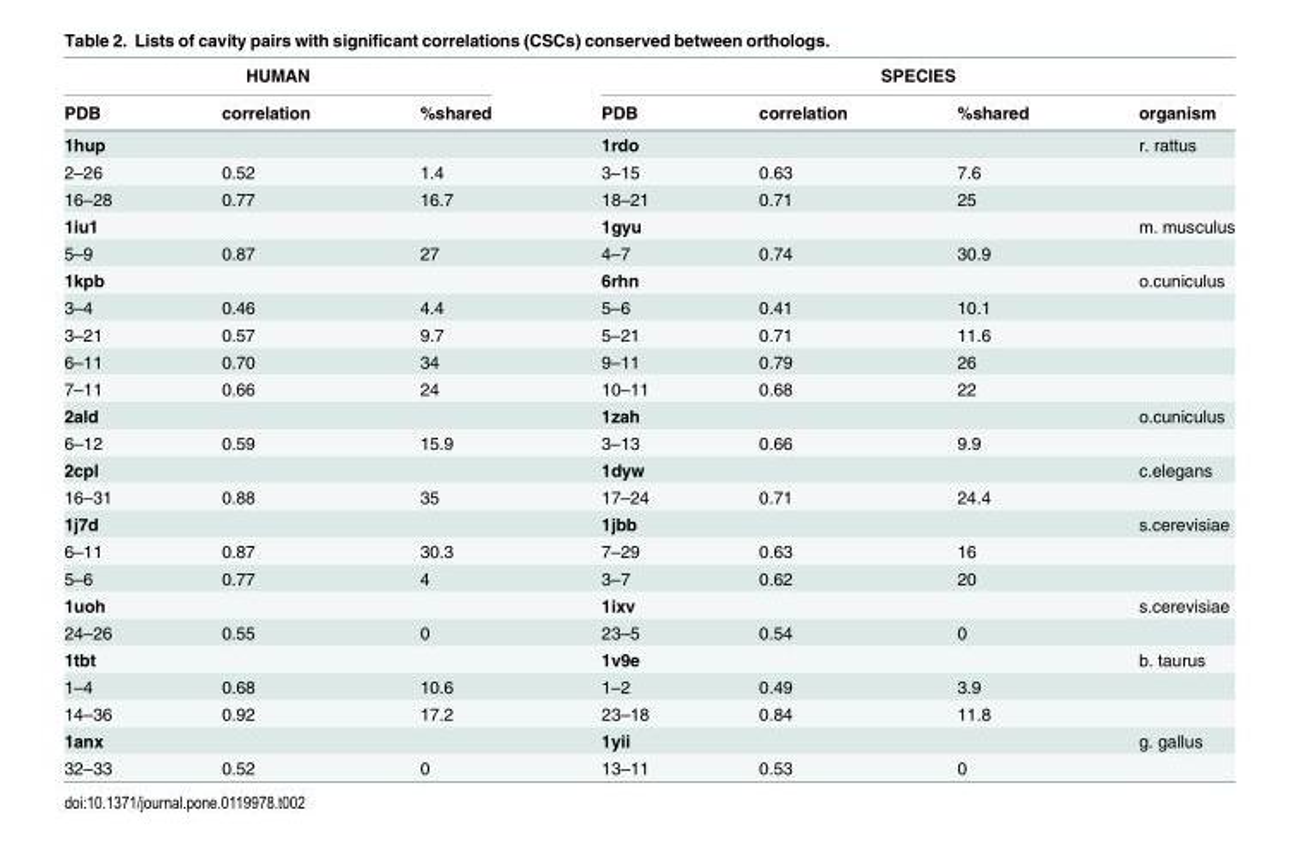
<table><thead><tr><td colspan="3">HUMAN</td><td colspan="4">SPECIES</td></tr><tr><td>PDB</td><td>correlation</td><td>%shared</td><td>PDB</td><td>correlation</td><td>%shared</td><td>organism</td></tr></thead><tbody><tr><td>1hup</td><td></td><td></td><td>1rdo</td><td></td><td></td><td>r. rattus</td></tr><tr><td>2–26</td><td>0.52</td><td>1.4</td><td>3–15</td><td>0.63</td><td>7.6</td><td></td></tr><tr><td>16–28</td><td>0.77</td><td>16.7</td><td>18–21</td><td>0.71</td><td>25</td><td></td></tr><tr><td>1iu1</td><td></td><td></td><td>1gyu</td><td></td><td></td><td>m. musculus</td></tr><tr><td>5–9</td><td>0.87</td><td>27</td><td>4–7</td><td>0.74</td><td>30.9</td><td></td></tr><tr><td>1kpb</td><td></td><td></td><td>6rhn</td><td></td><td></td><td>o.cuniculus</td></tr><tr><td>3–4</td><td>0.46</td><td>4.4</td><td>5–6</td><td>0.41</td><td>10.1</td><td></td></tr><tr><td>3–21</td><td>0.57</td><td>9.7</td><td>5–21</td><td>0.71</td><td>11.6</td><td></td></tr><tr><td>6–11</td><td>0.70</td><td>34</td><td>9–11</td><td>0.79</td><td>26</td><td></td></tr><tr><td>7–11</td><td>0.66</td><td>24</td><td>10–11</td><td>0.68</td><td>22</td><td></td></tr><tr><td>2ald</td><td></td><td></td><td>1zah</td><td></td><td></td><td>o.cuniculus</td></tr><tr><td>6–12</td><td>0.59</td><td>15.9</td><td>3–13</td><td>0.66</td><td>9.9</td><td></td></tr><tr><td>2cpl</td><td></td><td></td><td>1dyw</td><td></td><td></td><td>c.elegans</td></tr><tr><td>16–31</td><td>0.88</td><td>35</td><td>17–24</td><td>0.71</td><td>24.4</td><td></td></tr><tr><td>1j7d</td><td></td><td></td><td>1jbb</td><td></td><td></td><td>s.cerevisiae</td></tr><tr><td>6–11</td><td>0.87</td><td>30.3</td><td>7–29</td><td>0.63</td><td>16</td><td></td></tr><tr><td>5–6</td><td>0.77</td><td>4</td><td>3–7</td><td>0.62</td><td>20</td><td></td></tr><tr><td>1uoh</td><td></td><td></td><td>1ixv</td><td></td><td></td><td>s.cerevisiae</td></tr><tr><td>24–26</td><td>0.55</td><td>0</td><td>23–5</td><td>0.54</td><td>0</td><td></td></tr><tr><td>1tbt</td><td></td><td></td><td>1v9e</td><td></td><td></td><td>b. taurus</td></tr><tr><td>1–4</td><td>0.68</td><td>10.6</td><td>1–2</td><td>0.49</td><td>3.9</td><td></td></tr><tr><td>14–36</td><td>0.92</td><td>17.2</td><td>23–18</td><td>0.84</td><td>11.8</td><td></td></tr><tr><td>1anx</td><td></td><td></td><td>1yii</td><td></td><td></td><td>g. gallus</td></tr><tr><td>32–33</td><td>0.52</td><td>0</td><td>13–11</td><td>0.53</td><td>0</td><td></td></tr></tbody></table>